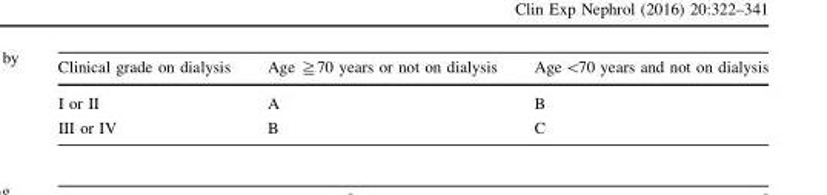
<table><thead><tr><td>Clinical grade on dialysis</td><td>Age ≧70 years or not on dialysis</td><td>Age &lt;70 years and not on dialysis</td></tr></thead><tbody><tr><td>I or II</td><td>A</td><td>B</td></tr><tr><td>III or IV</td><td>B</td><td>C</td></tr></tbody></table>